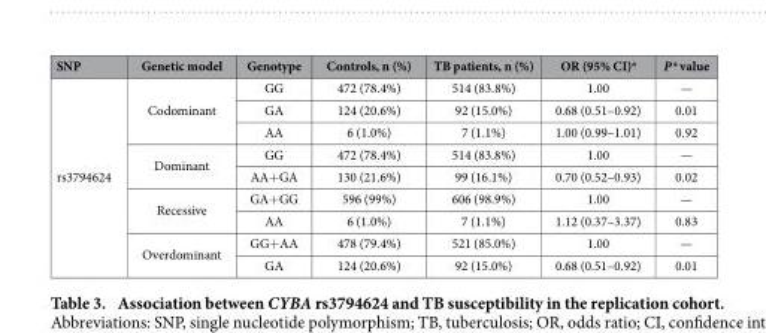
<table><thead><tr><td>SNP</td><td>Genetic model</td><td>Genotype</td><td>Controls, n (%)</td><td>TB patients, n (%)</td><td>OR (95% CI)<sup>a</sup></td><td>P a value</td></tr></thead><tbody><tr><td rowspan="9">rs3794624</td><td rowspan="3">Codominant</td><td>GG</td><td>472 (78.4%)</td><td>514 (83.8%)</td><td>1.00</td><td>—</td></tr><tr><td>GA</td><td>124 (20.6%)</td><td>92 (15.0%)</td><td>0.68 (0.51–0.92)</td><td>0.01</td></tr><tr><td>AA</td><td>6 (1.0%)</td><td>7 (1.1%)</td><td>1.00 (0.99–1.01)</td><td>0.92</td></tr><tr><td rowspan="2">Dominant</td><td>GG</td><td>472 (78.4%)</td><td>514 (83.8%)</td><td>1.00</td><td>—</td></tr><tr><td>AA+ GA</td><td>130 (21.6%)</td><td>99 (16.1%)</td><td>0.70 (0.52–0.93)</td><td>0.02</td></tr><tr><td rowspan="2">Recessive</td><td>GA+ GG</td><td>596 (99%)</td><td>606 (98.9%)</td><td>1.00</td><td>—</td></tr><tr><td>AA</td><td>6 (1.0%)</td><td>7 (1.1%)</td><td>1.12 (0.37–3.37)</td><td>0.83</td></tr><tr><td rowspan="2">Overdominant</td><td>GG+ AA</td><td>478 (79.4%)</td><td>521 (85.0%)</td><td>1.00</td><td>—</td></tr><tr><td>GA</td><td>124 (20.6%)</td><td>92 (15.0%)</td><td>0.68 (0.51–0.92)</td><td>0.01</td></tr></tbody></table>